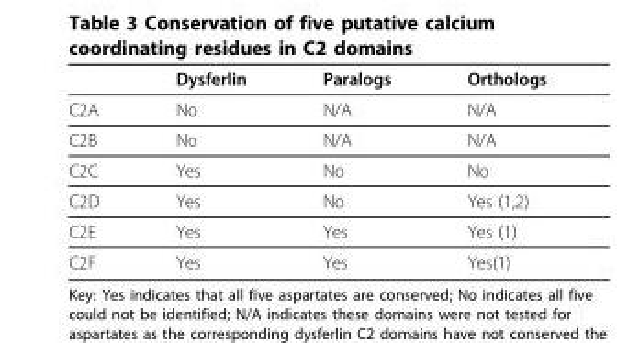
<table><thead><tr><td></td><td>Dysferlin</td><td>Paralogs</td><td>Orthologs</td></tr></thead><tbody><tr><td>C2A</td><td>No</td><td>N/A</td><td>N/A</td></tr><tr><td>C2B</td><td>No</td><td>N/A</td><td>N/A</td></tr><tr><td>C2C</td><td>Yes</td><td>No</td><td>No</td></tr><tr><td>C2D</td><td>Yes</td><td>No</td><td>Yes (1,2)</td></tr><tr><td>C2E</td><td>Yes</td><td>Yes</td><td>Yes (1)</td></tr><tr><td>C2F</td><td>Yes</td><td>Yes</td><td>Yes(1)</td></tr></tbody></table>